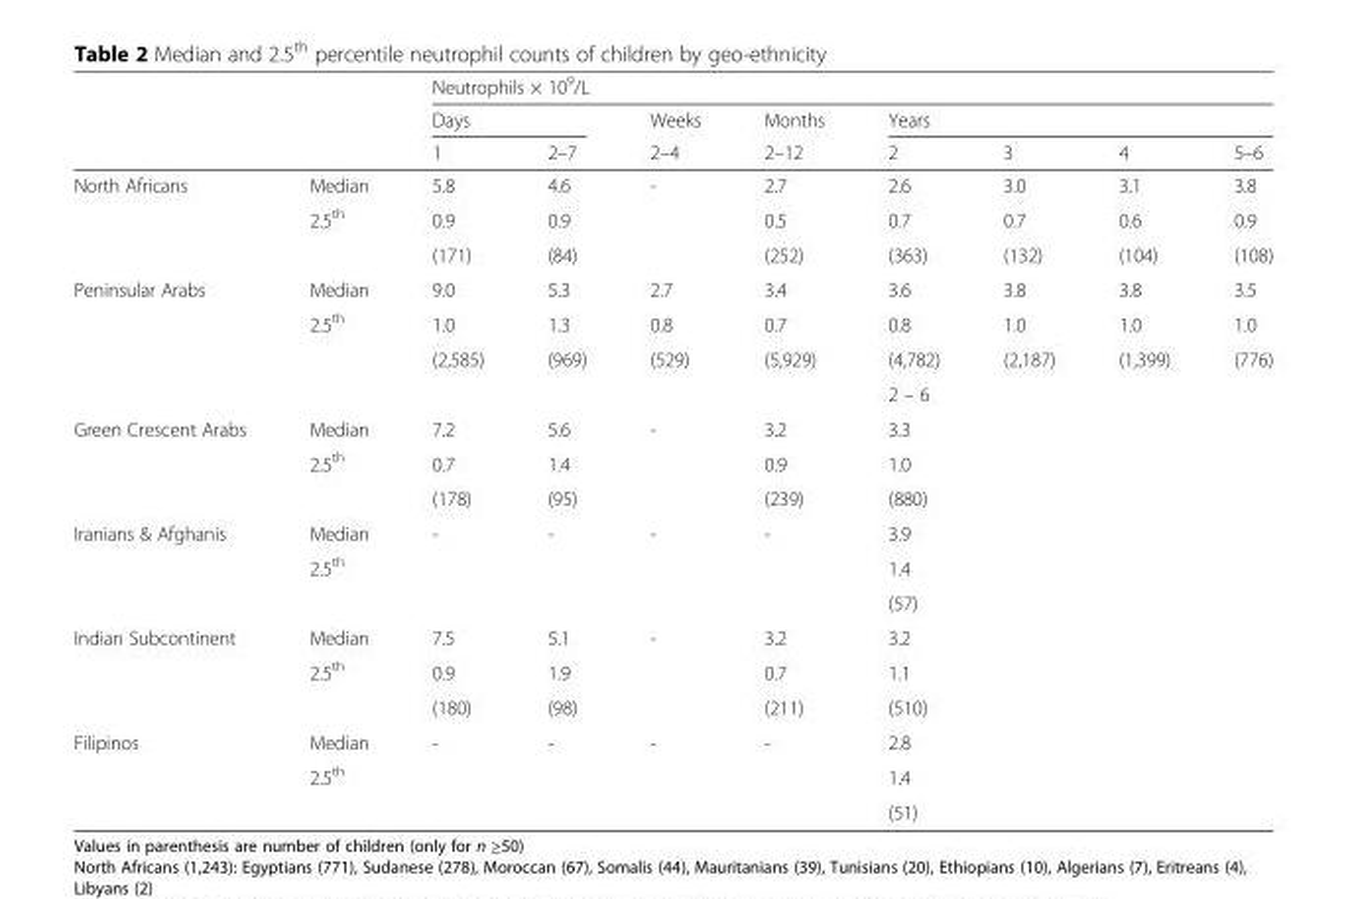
<table><thead><tr><td rowspan="3"></td><td rowspan="3"></td><td colspan="8">Neutrophils × 10<sup>9</sup>/L</td></tr><tr><td colspan="2">Days</td><td rowspan="2">Weeks 2–4</td><td rowspan="2">Months 2–12</td><td colspan="4">Years</td></tr><tr><td>1</td><td>2–7</td><td>2</td><td>3</td><td>4</td><td>5–6</td></tr></thead><tbody><tr><td rowspan="3">North Africans</td><td>Median</td><td>5.8</td><td>4.6</td><td>-</td><td>2.7</td><td>2.6</td><td>3.0</td><td>3.1</td><td>3.8</td></tr><tr><td rowspan="2">2.5<sup>th</sup></td><td>0.9</td><td>0.9</td><td></td><td>0.5</td><td>0.7</td><td>0.7</td><td>0.6</td><td>0.9</td></tr><tr><td>(171)</td><td>(84)</td><td></td><td>(252)</td><td>(363)</td><td>(132)</td><td>(104)</td><td>(108)</td></tr><tr><td rowspan="4">Peninsular Arabs</td><td>Median</td><td>9.0</td><td>5.3</td><td>2.7</td><td>3.4</td><td>3.6</td><td>3.8</td><td>3.8</td><td>3.5</td></tr><tr><td rowspan="2">2.5<sup>th</sup></td><td>1.0</td><td>1.3</td><td>0.8</td><td>0.7</td><td>0.8</td><td>1.0</td><td>1.0</td><td>1.0</td></tr><tr><td>(2,585)</td><td>(969)</td><td>(529)</td><td>(5,929)</td><td>(4,782)</td><td>(2,187)</td><td>(1,399)</td><td>(776)</td></tr><tr><td></td><td></td><td></td><td></td><td></td><td colspan="4">2 – 6</td></tr><tr><td rowspan="3">Green Crescent Arabs</td><td>Median</td><td>7.2</td><td>5.6</td><td>-</td><td>3.2</td><td colspan="4">3.3</td></tr><tr><td rowspan="2">2.5<sup>th</sup></td><td>0.7</td><td>1.4</td><td></td><td>0.9</td><td colspan="4">1.0</td></tr><tr><td>(178)</td><td>(95)</td><td></td><td>(239)</td><td colspan="4">(880)</td></tr><tr><td rowspan="3">Iranians &amp; Afghanis</td><td>Median</td><td>-</td><td>-</td><td>-</td><td>-</td><td colspan="4">3.9</td></tr><tr><td rowspan="2">2.5<sup>th</sup></td><td rowspan="2"></td><td rowspan="2"></td><td rowspan="2"></td><td rowspan="2"></td><td colspan="4">1.4</td></tr><tr><td colspan="4">(57)</td></tr><tr><td rowspan="3">Indian Subcontinent</td><td>Median</td><td>7.5</td><td>5.1</td><td>-</td><td>3.2</td><td colspan="4">3.2</td></tr><tr><td rowspan="2">2.5<sup>th</sup></td><td>0.9</td><td>1.9</td><td></td><td>0.7</td><td colspan="4">1.1</td></tr><tr><td>(180)</td><td>(98)</td><td></td><td>(211)</td><td colspan="4">(510)</td></tr><tr><td rowspan="3">Filipinos</td><td>Median</td><td rowspan="3">-</td><td rowspan="3">-</td><td rowspan="3">-</td><td rowspan="3">-</td><td colspan="4">2.8</td></tr><tr><td rowspan="2">2.5<sup>th</sup></td><td colspan="4">1.4</td></tr><tr><td colspan="4">(51)</td></tr></tbody></table>